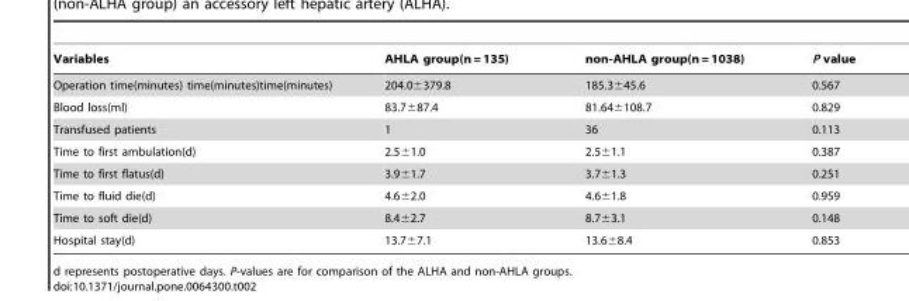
<table><thead><tr><td>Variables</td><td>AHLA group(n = 135)</td><td>non-AHLA group(n = 1038)</td><td>P value</td></tr></thead><tbody><tr><td>Operation time(minutes) time(minutes)time(minutes)</td><td>204.0±379.8</td><td>185.3±45.6</td><td>0.567</td></tr><tr><td>Blood loss(ml)</td><td>83.7±87.4</td><td>81.64±108.7</td><td>0.829</td></tr><tr><td>Transfused patients</td><td>1</td><td>36</td><td>0.113</td></tr><tr><td>Time to first ambulation(d)</td><td>2.5±1.0</td><td>2.5±1.1</td><td>0.387</td></tr><tr><td>Time to first flatus(d)</td><td>3.9±1.7</td><td>3.7±1.3</td><td>0.251</td></tr><tr><td>Time to fluid die(d)</td><td>4.6±2.0</td><td>4.6±1.8</td><td>0.959</td></tr><tr><td>Time to soft die(d)</td><td>8.4±2.7</td><td>8.7±3.1</td><td>0.148</td></tr><tr><td>Hospital stay(d)</td><td>13.7±7.1</td><td>13.6±8.4</td><td>0.853</td></tr></tbody></table>